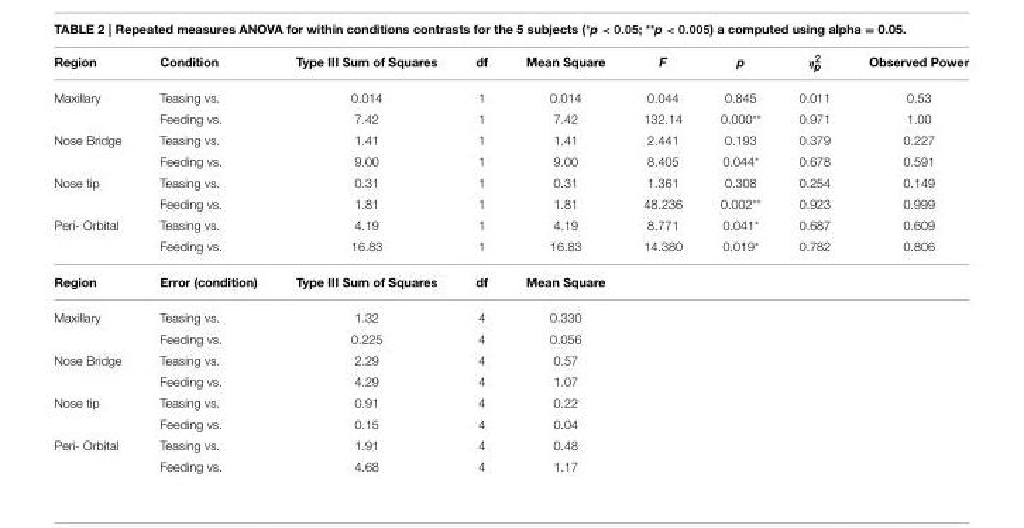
<table><thead><tr><td>Region</td><td>Condition</td><td>Type III Sum of Squares</td><td>df</td><td>Mean Square</td><td>F</td><td>p</td><td>η<sup>2</sup><sub>p</sub></td><td>Observed Power</td></tr></thead><tbody><tr><td rowspan="2">Maxillary</td><td>Teasing vs.</td><td>0.014</td><td>1</td><td>0.014</td><td>0.044</td><td>0.845</td><td>0.011</td><td>0.53</td></tr><tr><td>Feeding vs.</td><td>7.42</td><td>1</td><td>7.42</td><td>132.14</td><td>0.000**</td><td>0.971</td><td>1.00</td></tr><tr><td rowspan="2">Nose Bridge</td><td>Teasing vs.</td><td>1.41</td><td>1</td><td>1.41</td><td>2.441</td><td>0.193</td><td>0.379</td><td>0.227</td></tr><tr><td>Feeding vs.</td><td>9.00</td><td>1</td><td>9.00</td><td>8.405</td><td>0.044*</td><td>0.678</td><td>0.591</td></tr><tr><td rowspan="2">Nose tip</td><td>Teasing vs.</td><td>0.31</td><td>1</td><td>0.31</td><td>1.361</td><td>0.308</td><td>0.254</td><td>0.149</td></tr><tr><td>Feeding vs.</td><td>1.81</td><td>1</td><td>1.81</td><td>48.236</td><td>0.002**</td><td>0.923</td><td>0.999</td></tr><tr><td rowspan="2">Peri- Orbital</td><td>Teasing vs.</td><td>4.19</td><td>1</td><td>4.19</td><td>8.771</td><td>0.041*</td><td>0.687</td><td>0.609</td></tr><tr><td>Feeding vs.</td><td>16.83</td><td>1</td><td>16.83</td><td>14.380</td><td>0.019*</td><td>0.782</td><td>0.806</td></tr><tr><td>Region</td><td>Error (condition)</td><td>Type III Sum of Squares</td><td>df</td><td>Mean Square</td><td></td><td></td><td></td><td></td></tr><tr><td rowspan="2">Maxillary</td><td>Teasing vs.</td><td>1.32</td><td>4</td><td>0.330</td><td></td><td></td><td></td><td></td></tr><tr><td>Feeding vs.</td><td>0.225</td><td>4</td><td>0.056</td><td></td><td></td><td></td><td></td></tr><tr><td rowspan="2">Nose Bridge</td><td>Teasing vs.</td><td>2.29</td><td>4</td><td>0.57</td><td></td><td></td><td></td><td></td></tr><tr><td>Feeding vs.</td><td>4.29</td><td>4</td><td>1.07</td><td></td><td></td><td></td><td></td></tr><tr><td rowspan="2">Nose tip</td><td>Teasing vs.</td><td>0.91</td><td>4</td><td>0.22</td><td></td><td></td><td></td><td></td></tr><tr><td>Feeding vs.</td><td>0.15</td><td>4</td><td>0.04</td><td></td><td></td><td></td><td></td></tr><tr><td rowspan="2">Peri- Orbital</td><td>Teasing vs.</td><td>1.91</td><td>4</td><td>0.48</td><td></td><td></td><td></td><td></td></tr><tr><td>Feeding vs.</td><td>4.68</td><td>4</td><td>1.17</td><td></td><td></td><td></td><td></td></tr></tbody></table>